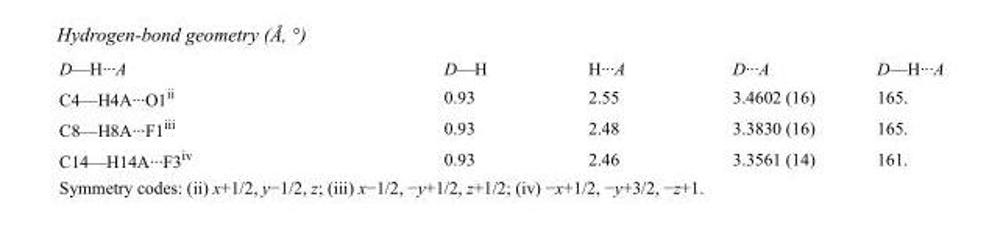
<table><tbody><tr><td>D—H···A</td><td>D—H</td><td>H···A</td><td>D···A</td><td>D—H···A</td></tr><tr><td>C4—H4A···O1<sup>ii</sup></td><td>0.93</td><td>2.55</td><td>3.4602 (16)</td><td>165.</td></tr><tr><td>C8—H8A···F1<sup>iii</sup></td><td>0.93</td><td>2.48</td><td>3.3830 (16)</td><td>165.</td></tr><tr><td>C14—H14A···F3<sup>iv</sup></td><td>0.93</td><td>2.46</td><td>3.3561 (14)</td><td>161.</td></tr></tbody></table>